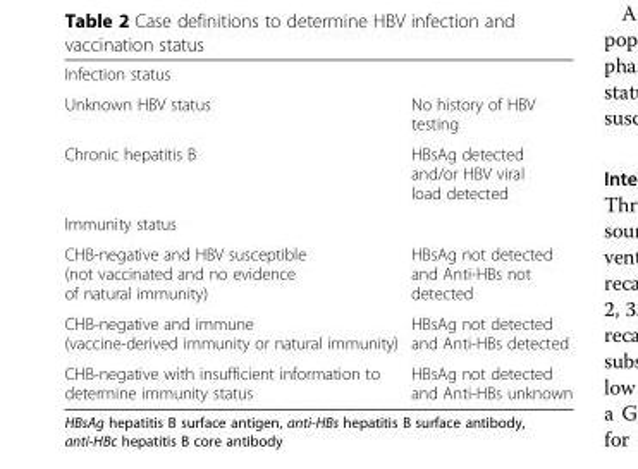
<table><tbody><tr><td colspan="2">Infection status</td></tr><tr><td>Unknown HBV status</td><td>No history of HBV testing</td></tr><tr><td>Chronic hepatitis B</td><td>HBsAg detected and/or HBV viral load detected</td></tr><tr><td colspan="2">Immunity status</td></tr><tr><td>CHB-negative and HBV susceptible (not vaccinated and no evidence of natural immunity)</td><td>HBsAg not detected and Anti-HBs not detected</td></tr><tr><td>CHB-negative and immune (vaccine-derived immunity or natural immunity)</td><td>HBsAg not detected and Anti-HBs detected</td></tr><tr><td>CHB-negative with insufficient information to determine immunity status</td><td>HBsAg not detected and Anti-HBs unknown</td></tr></tbody></table>